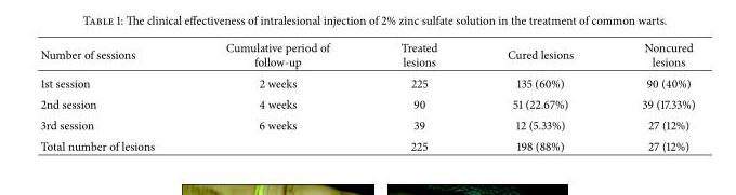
<table><thead><tr><td>Number of sessions</td><td>Cumulative period of follow-up</td><td>Treated lesions</td><td>Cured lesions</td><td>Noncured lesions</td></tr></thead><tbody><tr><td>1st session</td><td>2 weeks</td><td>225</td><td>135 (60%)</td><td>90 (40%)</td></tr><tr><td>2nd session</td><td>4 weeks</td><td>90</td><td>51 (22.67%)</td><td>39 (17.33%)</td></tr><tr><td>3rd session</td><td>6 weeks</td><td>39</td><td>12 (5.33%)</td><td>27 (12%)</td></tr><tr><td>Total number of lesions</td><td></td><td>225</td><td>198 (88%)</td><td>27 (12%)</td></tr></tbody></table>